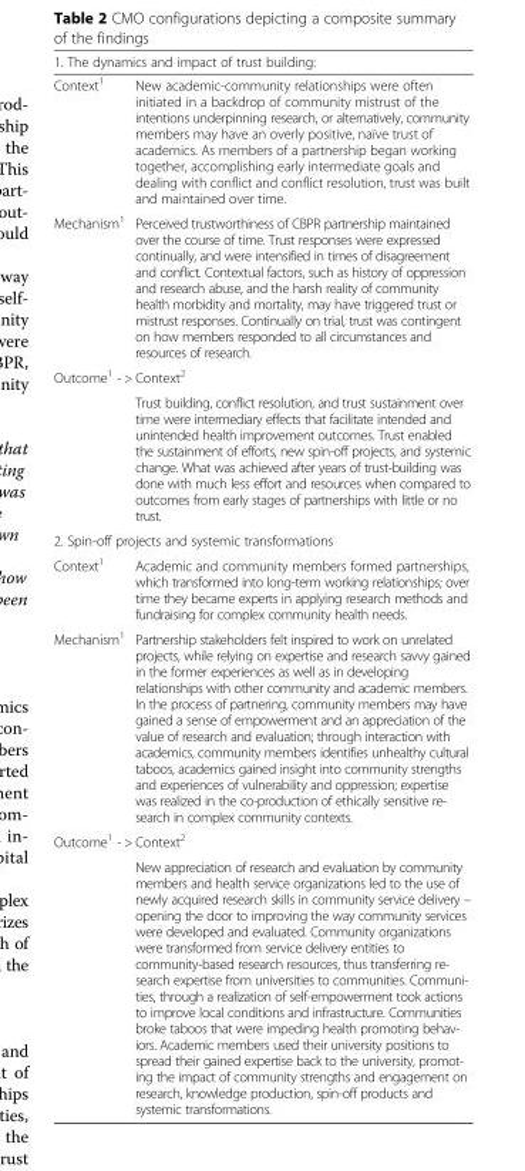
<table><thead><tr><td colspan="2">1. The dynamics and impact of trust building:</td></tr><tr><td>Context<sup>1</sup></td><td>New academic-community relationships were often initiated in a backdrop of community mistrust of the intentions underpinning research, or alternatively, community members may have an overly positive, naïve trust of academics. As members of a partnership began working together, accomplishing early intermediate goals and dealing with conflict and conflict resolution, trust was built and maintained over time.</td></tr></thead><tbody><tr><td>Mechanism<sup>1</sup></td><td>Perceived trustworthiness of CBPR partnership maintained over the course of time. Trust responses were expressed continually, and were intensified in times of disagreement and conflict. Contextual factors, such as history of oppression and research abuse, and the harsh reality of community health morbidity and mortality, may have triggered trust or mistrust responses. Continually on trial, trust was contingent on how members responded to all circumstances and resources of research.</td></tr><tr><td colspan="2">Outcome<sup>1</sup> - &gt; Context<sup>2</sup></td></tr><tr><td></td><td>Trust building, conflict resolution, and trust sustainment over time were intermediary effects that facilitate intended and unintended health improvement outcomes. Trust enabled the sustainment of efforts, new spin-off projects, and systemic change. What was achieved after years of trust-building was done with much less effort and resources when compared to outcomes from early stages of partnerships with little or no trust.</td></tr><tr><td colspan="2">2. Spin-off projects and systemic transformations</td></tr><tr><td>Context<sup>1</sup></td><td>Academic and community members formed partnerships, which transformed into long-term working relationships; over time they became experts in applying research methods and fundraising for complex community health needs.</td></tr><tr><td>Mechanism<sup>1</sup></td><td>Partnership stakeholders felt inspired to work on unrelated projects, while relying on expertise and research savvy gained in the former experiences as well as in developing relationships with other community and academic members. In the process of partnering, community members may have gained a sense of empowerment and an appreciation of the value of research and evaluation; through interaction with academics, community members identifies unhealthy cultural taboos, academics gained insight into community strengths and experiences of vulnerability and oppression; expertise was realized in the co-production of ethically sensitive re- search in complex community contexts.</td></tr><tr><td colspan="2">Outcome<sup>1</sup> - &gt; Context<sup>2</sup></td></tr><tr><td></td><td>New appreciation of research and evaluation by community members and health service organizations led to the use of newly acquired research skills in community service delivery – opening the door to improving the way community services were developed and evaluated. Community organizations were transformed from service delivery entities to community-based research resources, thus transferring re- search expertise from universities to communities. Communi- ties, through a realization of self-empowerment took actions to improve local conditions and infrastructure. Communities broke taboos that were impeding health promoting behav- iors. Academic members used their university positions to spread their gained expertise back to the university, promot- ing the impact of community strengths and engagement on research, knowledge production, spin-off products and systemic transformations.</td></tr></tbody></table>